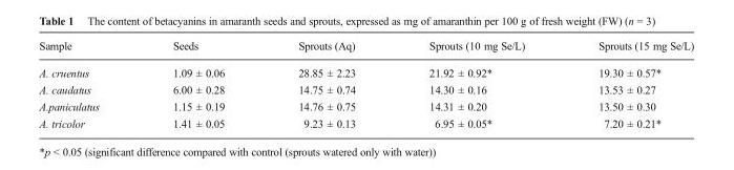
<table><thead><tr><td>Sample</td><td>Seeds</td><td>Sprouts (Aq)</td><td>Sprouts (10 mg Se/L)</td><td>Sprouts (15 mg Se/L)</td></tr></thead><tbody><tr><td>A. cruentus</td><td>1.09 ± 0.06</td><td>28.85 ± 2.23</td><td>21.92 ± 0.92*</td><td>19.30 ± 0.57*</td></tr><tr><td>A. caudatus</td><td>6.00 ± 0.28</td><td>14.75 ± 0.74</td><td>14.30 ± 0.16</td><td>13.53 ± 0.27</td></tr><tr><td>A.paniculatus</td><td>1.15 ± 0.19</td><td>14.76 ± 0.75</td><td>14.31 ± 0.20</td><td>13.50 ± 0.30</td></tr><tr><td>A. tricolor</td><td>1.41 ± 0.05</td><td>9.23 ± 0.13</td><td>6.95 ± 0.05*</td><td>7.20 ± 0.21*</td></tr></tbody></table>